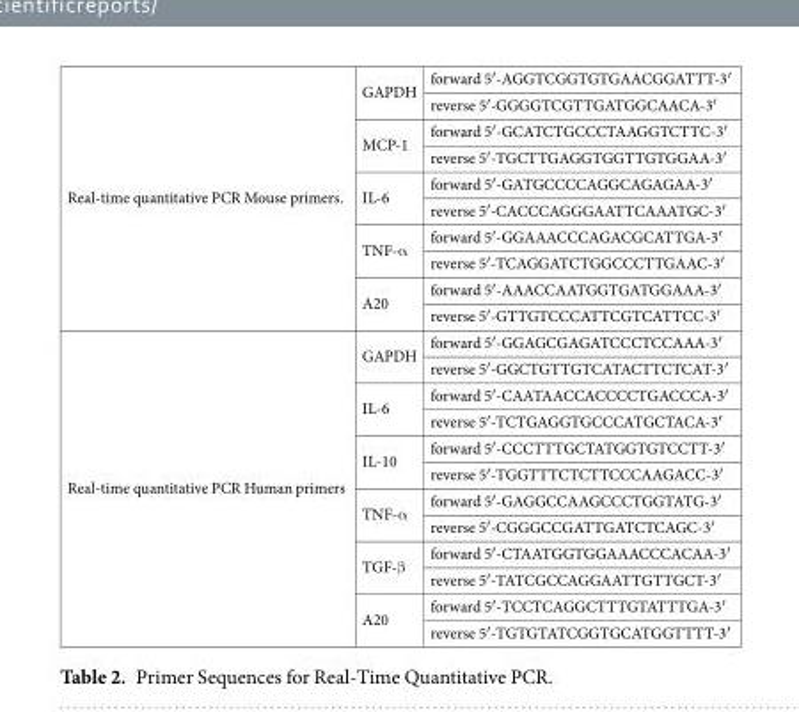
<table><tbody><tr><td rowspan="10">Real-time quantitative PCR Mouse primers.</td><td rowspan="2">GAPDH</td><td>forward 5′-AGGTCGGTGTGAACGGATTT-3′</td></tr><tr><td>reverse 5′-GGGGTCGTTGATGGCAACA-3′</td></tr><tr><td rowspan="2">MCP-1</td><td>forward 5′-GCATCTGCCCTAAGGTCTTC-3′</td></tr><tr><td>reverse 5′-TGCTTGAGGTGGTTGTGGAA-3′</td></tr><tr><td rowspan="2">IL-6</td><td>forward 5′-GATGCCCCAGGCAGAGAA-3′</td></tr><tr><td>reverse 5′-CACCCAGGGAATTCAAATGC-3′</td></tr><tr><td rowspan="2">TNF-α</td><td>forward 5′-GGAAACCCAGACGCATTGA-3′</td></tr><tr><td>reverse 5′-TCAGGATCTGGCCCTTGAAC-3′</td></tr><tr><td rowspan="2">A20</td><td>forward 5′-AAACCAATGGTGATGGAAA-3′</td></tr><tr><td>reverse 5′-GTTGTCCCATTCGTCATTCC-3′</td></tr><tr><td rowspan="12">Real-time quantitative PCR Human primers</td><td rowspan="2">GAPDH</td><td>forward 5′-GGAGCGAGATCCCTCCAAA-3′</td></tr><tr><td>reverse 5′-GGCTGTTGTCATACTTCTCAT-3′</td></tr><tr><td rowspan="2">IL-6</td><td>forward 5′-CAATAACCACCCCTGACCCA-3′</td></tr><tr><td>reverse 5′-TCTGAGGTGCCCATGCTACA-3′</td></tr><tr><td rowspan="2">IL-10</td><td>forward 5′-CCCTTTGCTATGGTGTCCTT-3′</td></tr><tr><td>reverse 5′-TGGTTTCTCTTCCCAAGACC-3′</td></tr><tr><td rowspan="2">TNF-α</td><td>forward 5′-GAGGCCAAGCCCTGGTATG-3′</td></tr><tr><td>reverse 5′-CGGGCCGATTGATCTCAGC-3′</td></tr><tr><td rowspan="2">TGF-β</td><td>forward 5′-CTAATGGTGGAAACCCACAA-3′</td></tr><tr><td>reverse 5′-TATCGCCAGGAATTGTTGCT-3′</td></tr><tr><td rowspan="2">A20</td><td>forward 5′-TCCTCAGGCTTTGTATTTGA-3′</td></tr><tr><td>reverse 5′-TGTGTATCGGTGCATGGTTTT-3′</td></tr></tbody></table>